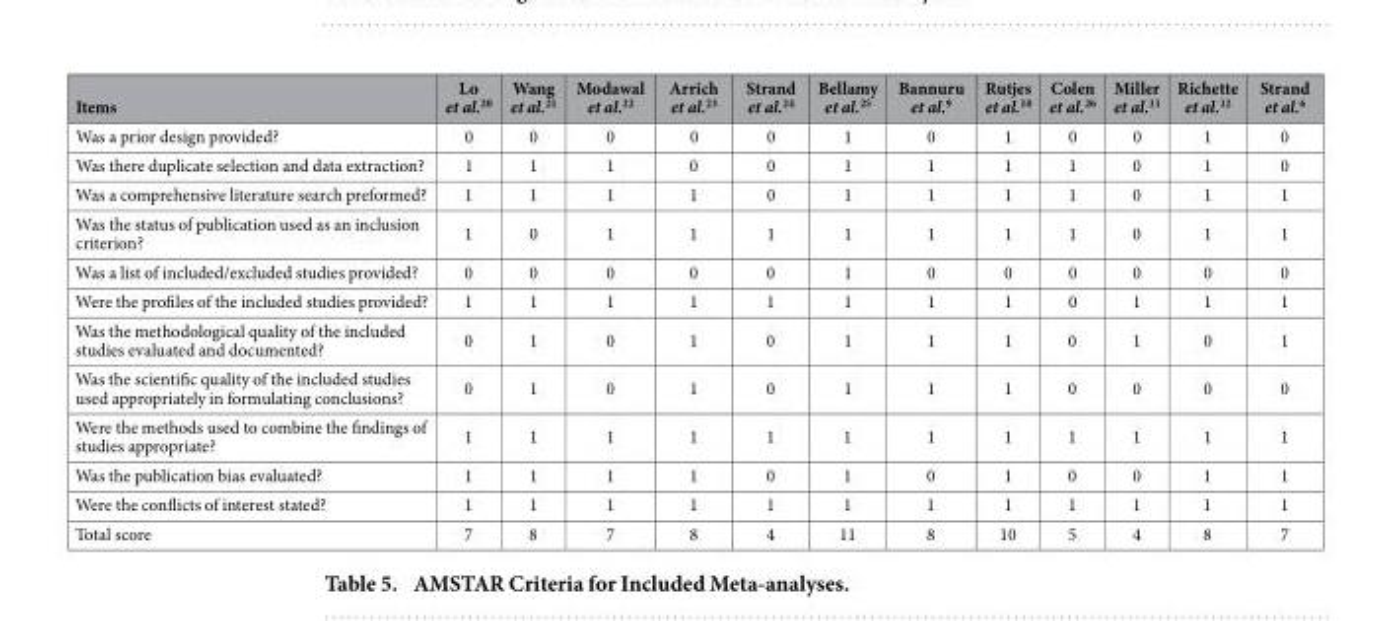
<table><thead><tr><td>Items</td><td>Lo et al.<sup>20</sup></td><td>Wang et al.<sup>21</sup></td><td>Modawal et al.<sup>22</sup></td><td>Arrich et al.<sup>23</sup></td><td>Strand et al.<sup>24</sup></td><td>Bellamy et al.<sup>25</sup></td><td>Bannuru et al.<sup>9</sup></td><td>Rutjes et al.<sup>10</sup></td><td>Colen et al.<sup>26</sup></td><td>Miller et al.<sup>11</sup></td><td>Richette et al.<sup>12</sup></td><td>Strand et al.<sup>6</sup></td></tr></thead><tbody><tr><td>Was a prior design provided?</td><td>0</td><td>0</td><td>0</td><td>0</td><td>0</td><td>1</td><td>0</td><td>1</td><td>0</td><td>0</td><td>1</td><td>0</td></tr><tr><td>Was there duplicate selection and data extraction?</td><td>1</td><td>1</td><td>1</td><td>0</td><td>0</td><td>1</td><td>1</td><td>1</td><td>1</td><td>0</td><td>1</td><td>0</td></tr><tr><td>Was a comprehensive literature search preformed?</td><td>1</td><td>1</td><td>1</td><td>1</td><td>0</td><td>1</td><td>1</td><td>1</td><td>1</td><td>0</td><td>1</td><td>1</td></tr><tr><td>Was the status of publication used as an inclusion criterion?</td><td>1</td><td>0</td><td>1</td><td>1</td><td>1</td><td>1</td><td>1</td><td>1</td><td>1</td><td>0</td><td>1</td><td>1</td></tr><tr><td>Was a list of included/excluded studies provided?</td><td>0</td><td>0</td><td>0</td><td>0</td><td>0</td><td>1</td><td>0</td><td>0</td><td>0</td><td>0</td><td>0</td><td>0</td></tr><tr><td>Were the profiles of the included studies provided?</td><td>1</td><td>1</td><td>1</td><td>1</td><td>1</td><td>1</td><td>1</td><td>1</td><td>0</td><td>1</td><td>1</td><td>1</td></tr><tr><td>Was the methodological quality of the included studies evaluated and documented?</td><td>0</td><td>1</td><td>0</td><td>1</td><td>0</td><td>1</td><td>1</td><td>1</td><td>0</td><td>1</td><td>0</td><td>1</td></tr><tr><td>Was the scientific quality of the included studies used appropriately in formulating conclusions?</td><td>0</td><td>1</td><td>0</td><td>1</td><td>0</td><td>1</td><td>1</td><td>1</td><td>0</td><td>0</td><td>0</td><td>0</td></tr><tr><td>Were the methods used to combine the findings of studies appropriate?</td><td>1</td><td>1</td><td>1</td><td>1</td><td>1</td><td>1</td><td>1</td><td>1</td><td>1</td><td>1</td><td>1</td><td>1</td></tr><tr><td>Was the publication bias evaluated?</td><td>1</td><td>1</td><td>1</td><td>1</td><td>0</td><td>1</td><td>0</td><td>1</td><td>0</td><td>0</td><td>1</td><td>1</td></tr><tr><td>Were the conflicts of interest stated?</td><td>1</td><td>1</td><td>1</td><td>1</td><td>1</td><td>1</td><td>1</td><td>1</td><td>1</td><td>1</td><td>1</td><td>1</td></tr><tr><td>Total score</td><td>7</td><td>8</td><td>7</td><td>8</td><td>4</td><td>11</td><td>8</td><td>10</td><td>5</td><td>4</td><td>8</td><td>7</td></tr></tbody></table>